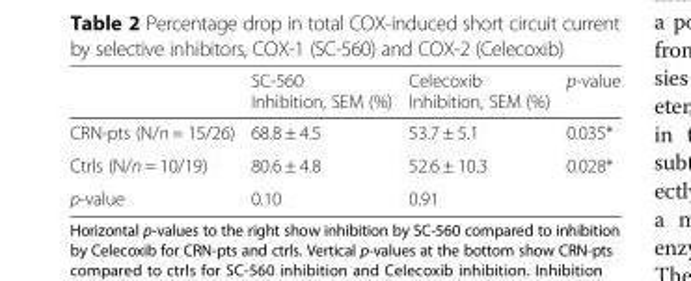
<table><thead><tr><td></td><td>SC-560 Inhibition, SEM (%)</td><td>Celecoxib Inhibition, SEM (%)</td><td>p-value</td></tr></thead><tbody><tr><td>CRN-pts (N/n = 15/26)</td><td>68.8 ± 4.5</td><td>53.7 ± 5.1</td><td>0.035*</td></tr><tr><td>Ctrls (N/n = 10/19)</td><td>80.6 ± 4.8</td><td>52.6 ± 10.3</td><td>0.028*</td></tr><tr><td>p-value</td><td>0.10</td><td>0.91</td><td></td></tr></tbody></table>